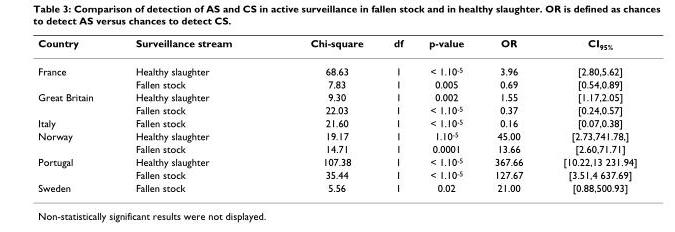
<table><thead><tr><td>Country</td><td>Surveillance stream</td><td>Chi-square</td><td>df</td><td>p-value</td><td>OR</td><td>CI<sub>95%</sub></td></tr></thead><tbody><tr><td rowspan="2">France</td><td>Healthy slaughter</td><td>68.63</td><td>1</td><td>&lt; 1.10<sup>-5</sup></td><td>3.96</td><td>[2.80,5.62]</td></tr><tr><td>Fallen stock</td><td>7.83</td><td>1</td><td>0.005</td><td>0.69</td><td>[0.54,0.89]</td></tr><tr><td rowspan="2">Great Britain</td><td>Healthy slaughter</td><td>9.30</td><td>1</td><td>0.002</td><td>1.55</td><td>[1.17,2.05]</td></tr><tr><td>Fallen stock</td><td>22.03</td><td>1</td><td>&lt; 1.10<sup>-5</sup></td><td>0.37</td><td>[0.24,0.57]</td></tr><tr><td>Italy</td><td>Fallen stock</td><td>21.60</td><td>1</td><td>&lt; 1.10<sup>-5</sup></td><td>0.16</td><td>[0.07,0.38]</td></tr><tr><td rowspan="2">Norway</td><td>Healthy slaughter</td><td>19.17</td><td>1</td><td>1.10<sup>-5</sup></td><td>45.00</td><td>[2.73,741.78,]</td></tr><tr><td>Fallen stock</td><td>14.71</td><td>1</td><td>0.0001</td><td>13.66</td><td>[2.60,71.71]</td></tr><tr><td rowspan="2">Portugal</td><td>Healthy slaughter</td><td>107.38</td><td>1</td><td>&lt; 1.10<sup>-5</sup></td><td>367.66</td><td>[10.22,13 231.94]</td></tr><tr><td>Fallen stock</td><td>35.44</td><td>1</td><td>&lt; 1.10<sup>-5</sup></td><td>127.67</td><td>[3.51,4 637.69]</td></tr><tr><td>Sweden</td><td>Fallen stock</td><td>5.56</td><td>1</td><td>0.02</td><td>21.00</td><td>[0.88,500.93]</td></tr></tbody></table>